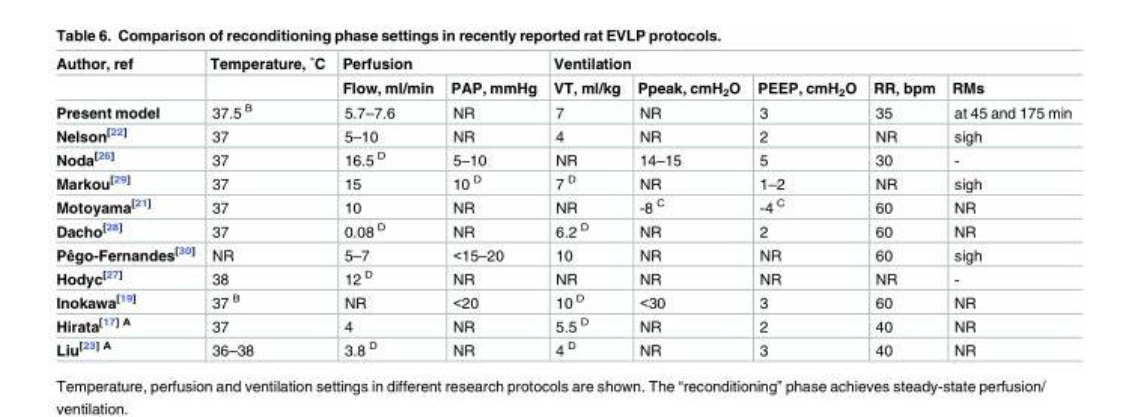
<table><thead><tr><td rowspan="2">Author, ref</td><td rowspan="2">Temperature, ˚C</td><td colspan="2">Perfusion</td><td colspan="5">Ventilation</td></tr><tr><td>Flow, ml/min</td><td>PAP, mmHg</td><td>VT, ml/kg</td><td>Ppeak, cmH<sub>2</sub>O</td><td>PEEP, cmH<sub>2</sub>O</td><td>RR, bpm</td><td>RMs</td></tr></thead><tbody><tr><td>Present model</td><td>37.5 <sup>B</sup></td><td>5.7–7.6</td><td>NR</td><td>7</td><td>NR</td><td>3</td><td>35</td><td>at 45 and 175 min</td></tr><tr><td>Nelson<sup>[22]</sup></td><td>37</td><td>5–10</td><td>NR</td><td>4</td><td>NR</td><td>2</td><td>NR</td><td>sigh</td></tr><tr><td>Noda<sup>[26]</sup></td><td>37</td><td>16.5 <sup>D</sup></td><td>5–10</td><td>NR</td><td>14–15</td><td>5</td><td>30</td><td>-</td></tr><tr><td>Markou<sup>[29]</sup></td><td>37</td><td>15</td><td>10 <sup>D</sup></td><td>7 <sup>D</sup></td><td>NR</td><td>1–2</td><td>NR</td><td>sigh</td></tr><tr><td>Motoyama<sup>[21]</sup></td><td>37</td><td>10</td><td>NR</td><td>NR</td><td>-8 <sup>C</sup></td><td>-4 <sup>C</sup></td><td>60</td><td>NR</td></tr><tr><td>Dacho<sup>[28]</sup></td><td>37</td><td>0.08 <sup>D</sup></td><td>NR</td><td>6.2 <sup>D</sup></td><td>NR</td><td>2</td><td>60</td><td>NR</td></tr><tr><td>Pêgo-Fernandes<sup>[30]</sup></td><td>NR</td><td>5–7</td><td>&lt;15–20</td><td>10</td><td>NR</td><td>NR</td><td>60</td><td>sigh</td></tr><tr><td>Hodyc<sup>[27]</sup></td><td>38</td><td>12 <sup>D</sup></td><td>NR</td><td>NR</td><td>NR</td><td>NR</td><td>NR</td><td>-</td></tr><tr><td>Inokawa<sup>[19]</sup></td><td>37 <sup>B</sup></td><td>NR</td><td>&lt;20</td><td>10 <sup>D</sup></td><td>&lt;30</td><td>3</td><td>60</td><td>NR</td></tr><tr><td>Hirata<sup>[17] A</sup></td><td>37</td><td>4</td><td>NR</td><td>5.5 <sup>D</sup></td><td>NR</td><td>2</td><td>40</td><td>NR</td></tr><tr><td>Liu<sup>[23] A</sup></td><td>36–38</td><td>3.8 <sup>D</sup></td><td>NR</td><td>4 <sup>D</sup></td><td>NR</td><td>3</td><td>40</td><td>NR</td></tr></tbody></table>